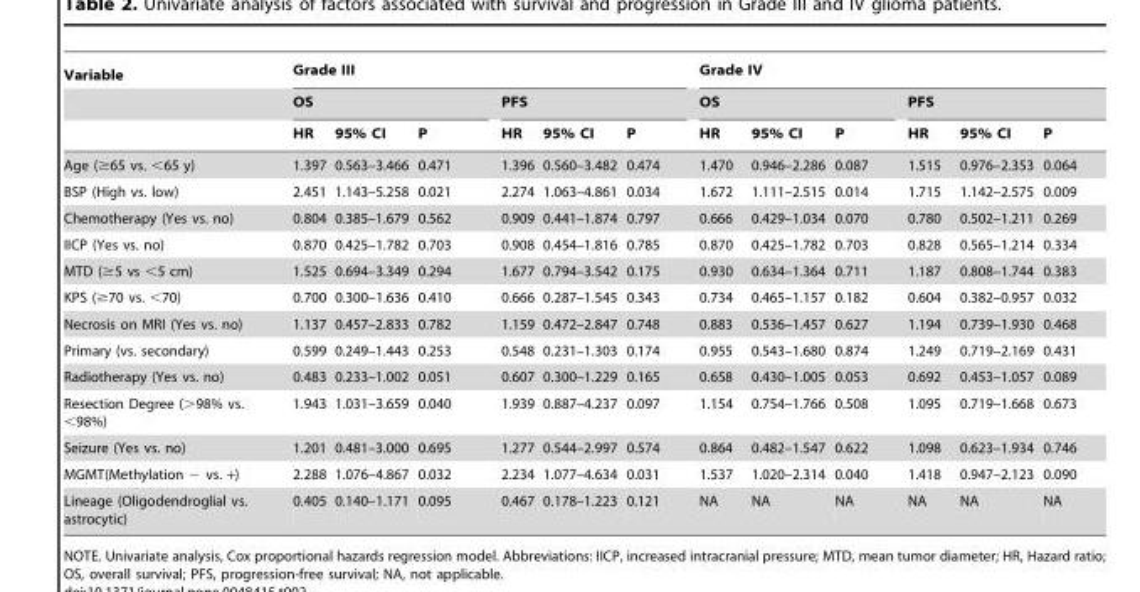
<table><thead><tr><td rowspan="3">Variable</td><td colspan="6">Grade III</td><td colspan="6">Grade IV</td></tr><tr><td colspan="3">OS</td><td colspan="3">PFS</td><td colspan="3">OS</td><td colspan="3">PFS</td></tr><tr><td>HR</td><td>95% CI</td><td>P</td><td>HR</td><td>95% CI</td><td>P</td><td>HR</td><td>95% CI</td><td>P</td><td>HR</td><td>95% CI</td><td>P</td></tr></thead><tbody><tr><td>Age (≥65 vs. &lt;65 y)</td><td>1.397</td><td>0.563–3.466</td><td>0.471</td><td>1.396</td><td>0.560–3.482</td><td>0.474</td><td>1.470</td><td>0.946–2.286</td><td>0.087</td><td>1.515</td><td>0.976–2.353</td><td>0.064</td></tr><tr><td>BSP (High vs. low)</td><td>2.451</td><td>1.143–5.258</td><td>0.021</td><td>2.274</td><td>1.063–4.861</td><td>0.034</td><td>1.672</td><td>1.111–2.515</td><td>0.014</td><td>1.715</td><td>1.142–2.575</td><td>0.009</td></tr><tr><td>Chemotherapy (Yes vs. no)</td><td>0.804</td><td>0.385–1.679</td><td>0.562</td><td>0.909</td><td>0.441–1.874</td><td>0.797</td><td>0.666</td><td>0.429–1.034</td><td>0.070</td><td>0.780</td><td>0.502–1.211</td><td>0.269</td></tr><tr><td>IICP (Yes vs. no)</td><td>0.870</td><td>0.425–1.782</td><td>0.703</td><td>0.908</td><td>0.454–1.816</td><td>0.785</td><td>0.870</td><td>0.425–1.782</td><td>0.703</td><td>0.828</td><td>0.565–1.214</td><td>0.334</td></tr><tr><td>MTD (≥5 vs &lt;5 cm)</td><td>1.525</td><td>0.694–3.349</td><td>0.294</td><td>1.677</td><td>0.794–3.542</td><td>0.175</td><td>0.930</td><td>0.634–1.364</td><td>0.711</td><td>1.187</td><td>0.808–1.744</td><td>0.383</td></tr><tr><td>KPS (≥70 vs. &lt;70)</td><td>0.700</td><td>0.300–1.636</td><td>0.410</td><td>0.666</td><td>0.287–1.545</td><td>0.343</td><td>0.734</td><td>0.465–1.157</td><td>0.182</td><td>0.604</td><td>0.382–0.957</td><td>0.032</td></tr><tr><td>Necrosis on MRI (Yes vs. no)</td><td>1.137</td><td>0.457–2.833</td><td>0.782</td><td>1.159</td><td>0.472–2.847</td><td>0.748</td><td>0.883</td><td>0.536–1.457</td><td>0.627</td><td>1.194</td><td>0.739–1.930</td><td>0.468</td></tr><tr><td>Primary (vs. secondary)</td><td>0.599</td><td>0.249–1.443</td><td>0.253</td><td>0.548</td><td>0.231–1.303</td><td>0.174</td><td>0.955</td><td>0.543–1.680</td><td>0.874</td><td>1.249</td><td>0.719–2.169</td><td>0.431</td></tr><tr><td>Radiotherapy (Yes vs. no)</td><td>0.483</td><td>0.233–1.002</td><td>0.051</td><td>0.607</td><td>0.300–1.229</td><td>0.165</td><td>0.658</td><td>0.430–1.005</td><td>0.053</td><td>0.692</td><td>0.453–1.057</td><td>0.089</td></tr><tr><td>Resection Degree (&gt;98% vs. &lt;98%)</td><td>1.943</td><td>1.031–3.659</td><td>0.040</td><td>1.939</td><td>0.887–4.237</td><td>0.097</td><td>1.154</td><td>0.754–1.766</td><td>0.508</td><td>1.095</td><td>0.719–1.668</td><td>0.673</td></tr><tr><td>Seizure (Yes vs. no)</td><td>1.201</td><td>0.481–3.000</td><td>0.695</td><td>1.277</td><td>0.544–2.997</td><td>0.574</td><td>0.864</td><td>0.482–1.547</td><td>0.622</td><td>1.098</td><td>0.623–1.934</td><td>0.746</td></tr><tr><td>MGMT(Methylation − vs. +)</td><td>2.288</td><td>1.076–4.867</td><td>0.032</td><td>2.234</td><td>1.077–4.634</td><td>0.031</td><td>1.537</td><td>1.020–2.314</td><td>0.040</td><td>1.418</td><td>0.947–2.123</td><td>0.090</td></tr><tr><td>Lineage (Oligodendroglial vs. astrocytic)</td><td>0.405</td><td>0.140–1.171</td><td>0.095</td><td>0.467</td><td>0.178–1.223</td><td>0.121</td><td>NA</td><td>NA</td><td>NA</td><td>NA</td><td>NA</td><td>NA</td></tr></tbody></table>